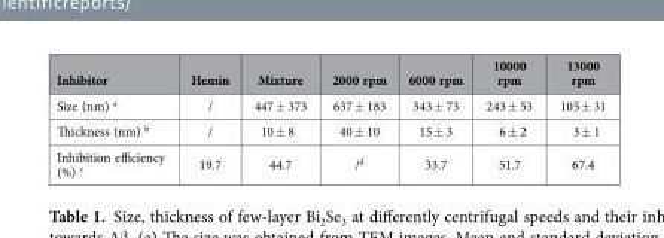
<table><thead><tr><td>Inhibitor</td><td>Hemin</td><td>Mixture</td><td>2000 rpm</td><td>6000 rpm</td><td>10000 rpm</td><td>13000 rpm</td></tr></thead><tbody><tr><td>Size (nm) a</td><td>/</td><td>447 ± 373</td><td>637 ± 183</td><td>343 ± 73</td><td>243 ± 53</td><td>105 ± 31</td></tr><tr><td>Thickness (nm) b</td><td>/</td><td>10 ± 8</td><td>40 ± 10</td><td>15 ± 3</td><td>6 ± 2</td><td>3 ± 1</td></tr><tr><td>Inhibition efficiency (%) c</td><td>19.7</td><td>44.7</td><td>/d</td><td>33.7</td><td>51.7</td><td>67.4</td></tr></tbody></table>